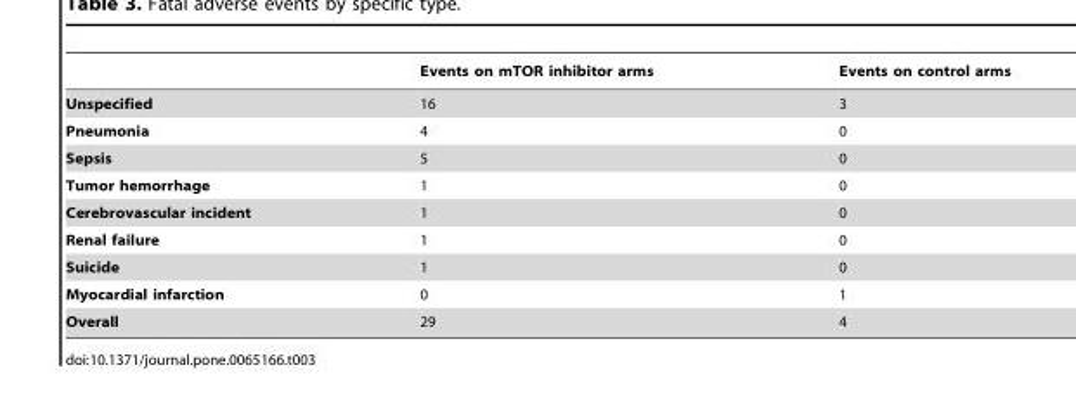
<table><thead><tr><td></td><td>Events on mTOR inhibitor arms</td><td>Events on control arms</td></tr></thead><tbody><tr><td>Unspecified</td><td>16</td><td>3</td></tr><tr><td>Pneumonia</td><td>4</td><td>0</td></tr><tr><td>Sepsis</td><td>5</td><td>0</td></tr><tr><td>Tumor hemorrhage</td><td>1</td><td>0</td></tr><tr><td>Cerebrovascular incident</td><td>1</td><td>0</td></tr><tr><td>Renal failure</td><td>1</td><td>0</td></tr><tr><td>Suicide</td><td>1</td><td>0</td></tr><tr><td>Myocardial infarction</td><td>0</td><td>1</td></tr><tr><td>Overall</td><td>29</td><td>4</td></tr></tbody></table>